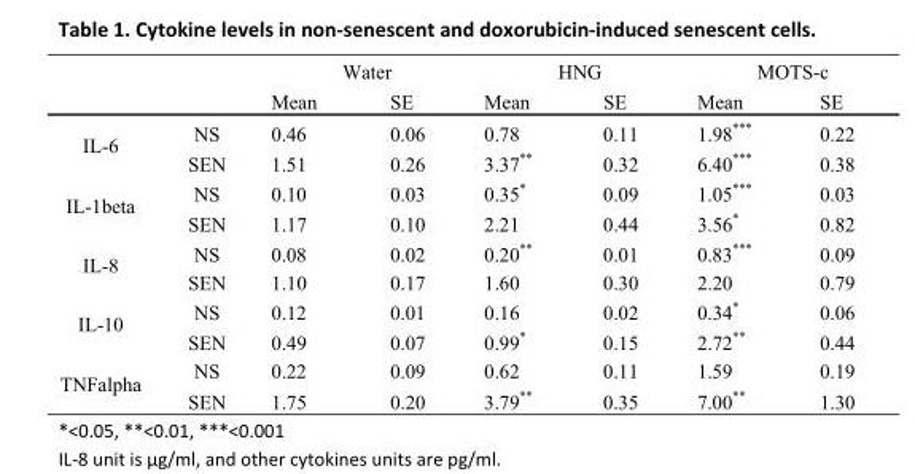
<table><thead><tr><td rowspan="2"></td><td rowspan="2"></td><td colspan="2">Water</td><td colspan="2">HNG</td><td colspan="2">MOTS-c</td></tr><tr><td>Mean</td><td>SE</td><td>Mean</td><td>SE</td><td>Mean</td><td>SE</td></tr></thead><tbody><tr><td rowspan="2">IL-6</td><td>NS</td><td>0.46</td><td>0.06</td><td>0.78</td><td>0.11</td><td>1.98***</td><td>0.22</td></tr><tr><td>SEN</td><td>1.51</td><td>0.26</td><td>3.37**</td><td>0.32</td><td>6.40***</td><td>0.38</td></tr><tr><td rowspan="2">IL-1beta</td><td>NS</td><td>0.10</td><td>0.03</td><td>0.35*</td><td>0.09</td><td>1.05***</td><td>0.03</td></tr><tr><td>SEN</td><td>1.17</td><td>0.10</td><td>2.21</td><td>0.44</td><td>3.56*</td><td>0.82</td></tr><tr><td rowspan="2">IL-8</td><td>NS</td><td>0.08</td><td>0.02</td><td>0.20**</td><td>0.01</td><td>0.83***</td><td>0.09</td></tr><tr><td>SEN</td><td>1.10</td><td>0.17</td><td>1.60</td><td>0.30</td><td>2.20</td><td>0.79</td></tr><tr><td rowspan="2">IL-10</td><td>NS</td><td>0.12</td><td>0.01</td><td>0.16</td><td>0.02</td><td>0.34*</td><td>0.06</td></tr><tr><td>SEN</td><td>0.49</td><td>0.07</td><td>0.99*</td><td>0.15</td><td>2.72**</td><td>0.44</td></tr><tr><td rowspan="2">TNFalpha</td><td>NS</td><td>0.22</td><td>0.09</td><td>0.62</td><td>0.11</td><td>1.59</td><td>0.19</td></tr><tr><td>SEN</td><td>1.75</td><td>0.20</td><td>3.79**</td><td>0.35</td><td>7.00**</td><td>1.30</td></tr></tbody></table>